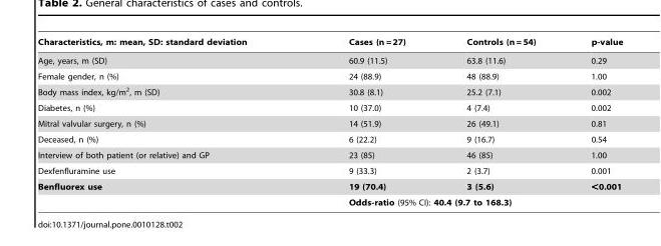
<table><thead><tr><td>Characteristics, m: mean, SD: standard deviation</td><td>Cases (n = 27)</td><td>Controls (n = 54)</td><td>p-value</td></tr></thead><tbody><tr><td>Age, years, m (SD)</td><td>60.9 (11.5)</td><td>63.8 (11.6)</td><td>0.29</td></tr><tr><td>Female gender, n (%)</td><td>24 (88.9)</td><td>48 (88.9)</td><td>1.00</td></tr><tr><td>Body mass index, kg/m<sup>2</sup>, m (SD)</td><td>30.8 (8.1)</td><td>25.2 (7.1)</td><td>0.002</td></tr><tr><td>Diabetes, n (%)</td><td>10 (37.0)</td><td>4 (7.4)</td><td>0.002</td></tr><tr><td>Mitral valvular surgery, n (%)</td><td>14 (51.9)</td><td>26 (49.1)</td><td>0.81</td></tr><tr><td>Deceased, n (%)</td><td>6 (22.2)</td><td>9 (16.7)</td><td>0.54</td></tr><tr><td>Interview of both patient (or relative) and GP</td><td>23 (85)</td><td>46 (85)</td><td>1.00</td></tr><tr><td>Dexfenfluramine use</td><td>9 (33.3)</td><td>2 (3.7)</td><td>0.001</td></tr><tr><td rowspan="2">Benfluorex use</td><td>19 (70.4)</td><td>3 (5.6)</td><td>&lt;0.001</td></tr><tr><td colspan="3">Odds-ratio (95% CI): 40.4 (9.7 to 168.3)</td></tr></tbody></table>